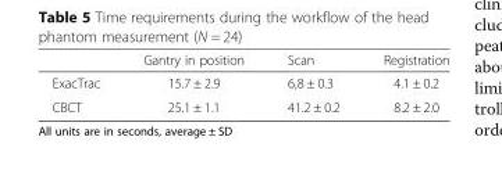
<table><thead><tr><td></td><td>Gantry in position</td><td>Scan</td><td>Registration</td></tr></thead><tbody><tr><td>ExacTrac</td><td>15.7 ± 2.9</td><td>6,8 ± 0.3</td><td>4.1 ± 0.2</td></tr><tr><td>CBCT</td><td>25.1 ± 1.1</td><td>41.2 ± 0.2</td><td>8.2 ± 2.0</td></tr></tbody></table>